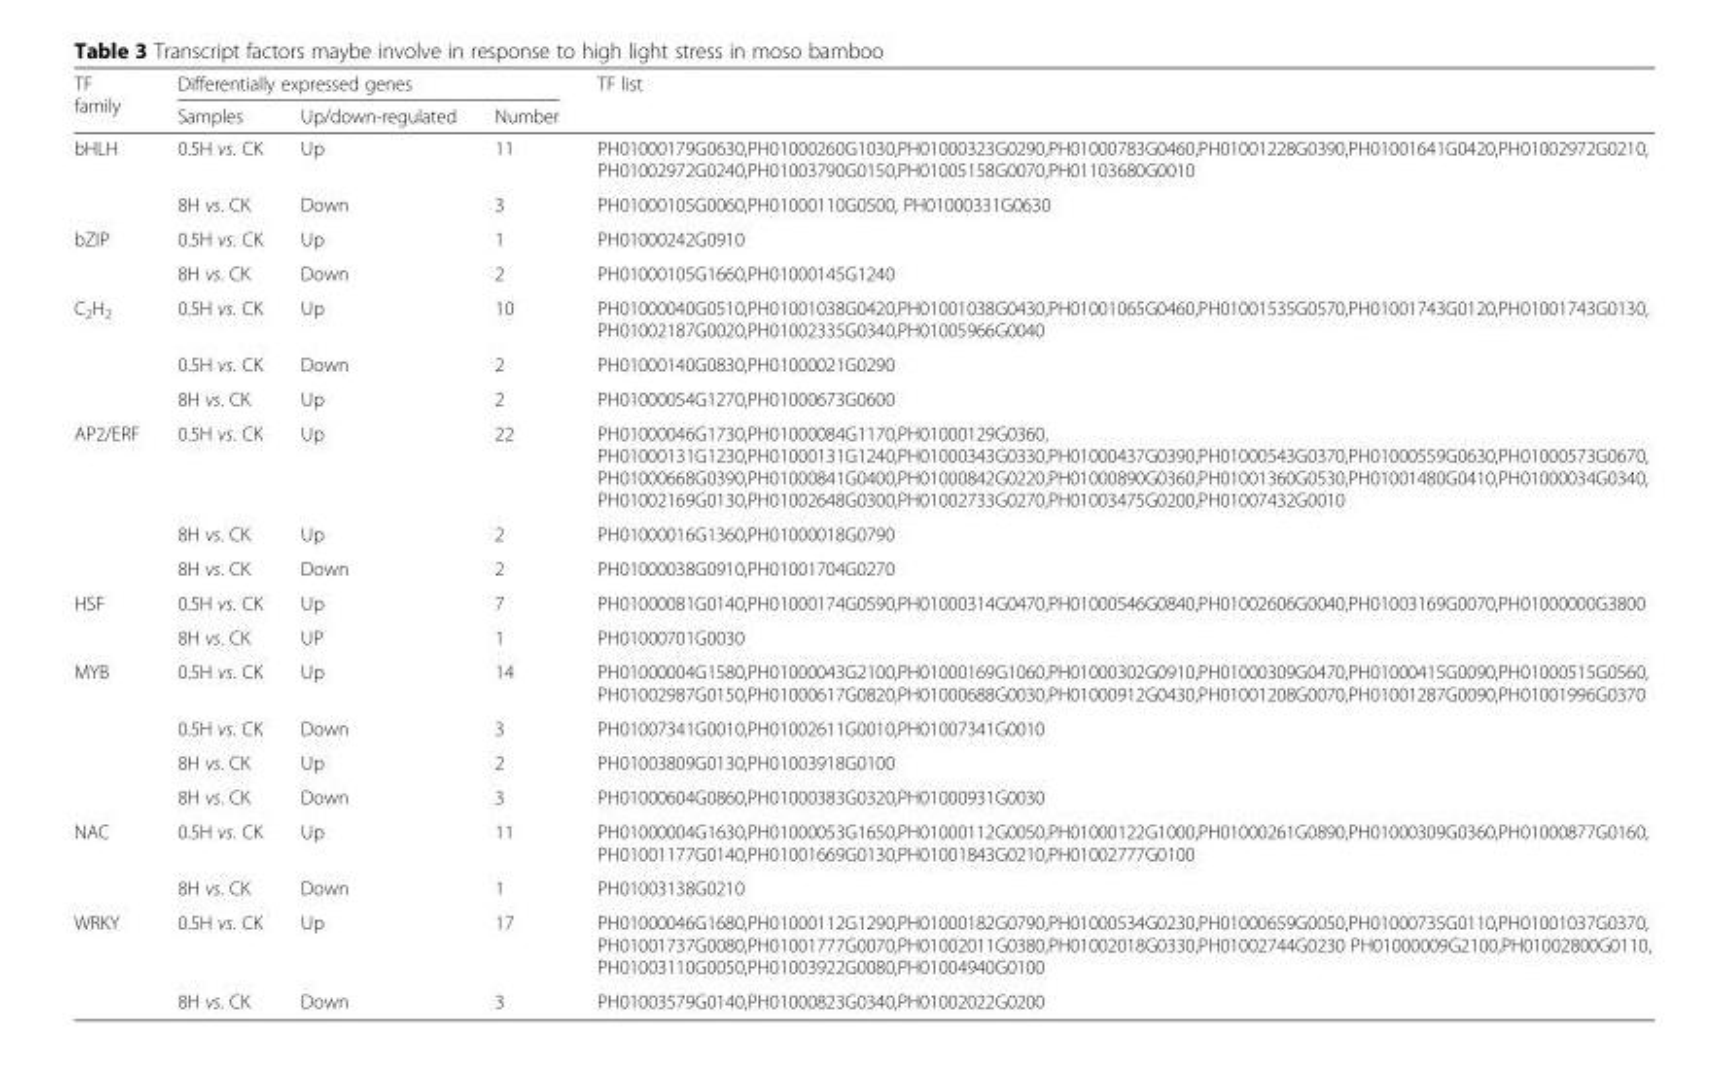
<table><thead><tr><td rowspan="2">TF family</td><td colspan="3">Differentially expressed genes</td><td rowspan="2">TF list</td></tr><tr><td>Samples</td><td>Up/down-regulated</td><td>Number</td></tr></thead><tbody><tr><td rowspan="2">bHLH</td><td>0.5H vs. CK</td><td>Up</td><td>11</td><td>PH01000179G0630,PH01000260G1030,PH01000323G0290,PH01000783G0460,PH01001228G0390,PH01001641G0420,PH01002972G0210, PH01002972G0240,PH01003790G0150,PH01005158G0070,PH01103680G0010</td></tr><tr><td>8H vs. CK</td><td>Down</td><td>3</td><td>PH01000105G0060,PH01000110G0500, PH01000331G0630</td></tr><tr><td rowspan="2">bZIP</td><td>0.5H vs. CK</td><td>Up</td><td>1</td><td>PH01000242G0910</td></tr><tr><td>8H vs. CK</td><td>Down</td><td>2</td><td>PH01000105G1660,PH01000145G1240</td></tr><tr><td rowspan="3">C<sub>2</sub>H<sub>2</sub></td><td>0.5H vs. CK</td><td>Up</td><td>10</td><td>PH01000040G0510,PH01001038G0420,PH01001038G0430,PH01001065G0460,PH01001535G0570,PH01001743G0120,PH01001743G0130, PH01002187G0020,PH01002335G0340,PH01005966G0040</td></tr><tr><td>0.5H vs. CK</td><td>Down</td><td>2</td><td>PH01000140G0830,PH01000021G0290</td></tr><tr><td>8H vs. CK</td><td>Up</td><td>2</td><td>PH01000054G1270,PH01000673G0600</td></tr><tr><td rowspan="3">AP2/ERF</td><td>0.5H vs. CK</td><td>Up</td><td>22</td><td>PH01000046G1730,PH01000084G1170,PH01000129G0360, PH01000131G1230,PH01000131G1240,PH01000343G0330,PH01000437G0390,PH01000543G0370,PH01000559G0630,PH01000573G0670, PH01000668G0390,PH01000841G0400,PH01000842G0220,PH01000890G0360,PH01001360G0530,PH01001480G0410,PH01000034G0340, PH01002169G0130,PH01002648G0300,PH01002733G0270,PH01003475G0200,PH01007432G0010</td></tr><tr><td>8H vs. CK</td><td>Up</td><td>2</td><td>PH01000016G1360,PH01000018G0790</td></tr><tr><td>8H vs. CK</td><td>Down</td><td>2</td><td>PH01000038G0910,PH01001704G0270</td></tr><tr><td rowspan="2">HSF</td><td>0.5H vs. CK</td><td>Up</td><td>7</td><td>PH01000081G0140,PH01000174G0590,PH01000314G0470,PH01000546G0840,PH01002606G0040,PH01003169G0070,PH01000000G3800</td></tr><tr><td>8H vs. CK</td><td>UP</td><td>1</td><td>PH01000701G0030</td></tr><tr><td rowspan="4">MYB</td><td>0.5H vs. CK</td><td>Up</td><td>14</td><td>PH01000004G1580,PH01000043G2100,PH01000169G1060,PH01000302G0910,PH01000309G0470,PH01000415G0090,PH01000515G0560, PH01002987G0150,PH01000617G0820,PH01000688G0030,PH01000912G0430,PH01001208G0070,PH01001287G0090,PH01001996G0370</td></tr><tr><td>0.5H vs. CK</td><td>Down</td><td>3</td><td>PH01007341G0010,PH01002611G0010,PH01007341G0010</td></tr><tr><td>8H vs. CK</td><td>Up</td><td>2</td><td>PH01003809G0130,PH01003918G0100</td></tr><tr><td>8H vs. CK</td><td>Down</td><td>3</td><td>PH01000604G0860,PH01000383G0320,PH01000931G0030</td></tr><tr><td rowspan="2">NAC</td><td>0.5H vs. CK</td><td>Up</td><td>11</td><td>PH01000004G1630,PH01000053G1650,PH01000112G0050,PH01000122G1000,PH01000261G0890,PH01000309G0360,PH01000877G0160, PH01001177G0140,PH01001669G0130,PH01001843G0210,PH01002777G0100</td></tr><tr><td>8H vs. CK</td><td>Down</td><td>1</td><td>PH01003138G0210</td></tr><tr><td rowspan="2">WRKY</td><td>0.5H vs. CK</td><td>Up</td><td>17</td><td>PH01000046G1680,PH01000112G1290,PH01000182G0790,PH01000534G0230,PH01000659G0050,PH01000735G0110,PH01001037G0370, PH01001737G0080,PH01001777G0070,PH01002011G0380,PH01002018G0330,PH01002744G0230 PH01000009G2100,PH01002800G0110, PH01003110G0050,PH01003922G0080,PH01004940G0100</td></tr><tr><td>8H vs. CK</td><td>Down</td><td>3</td><td>PH01003579G0140,PH01000823G0340,PH01002022G0200</td></tr></tbody></table>